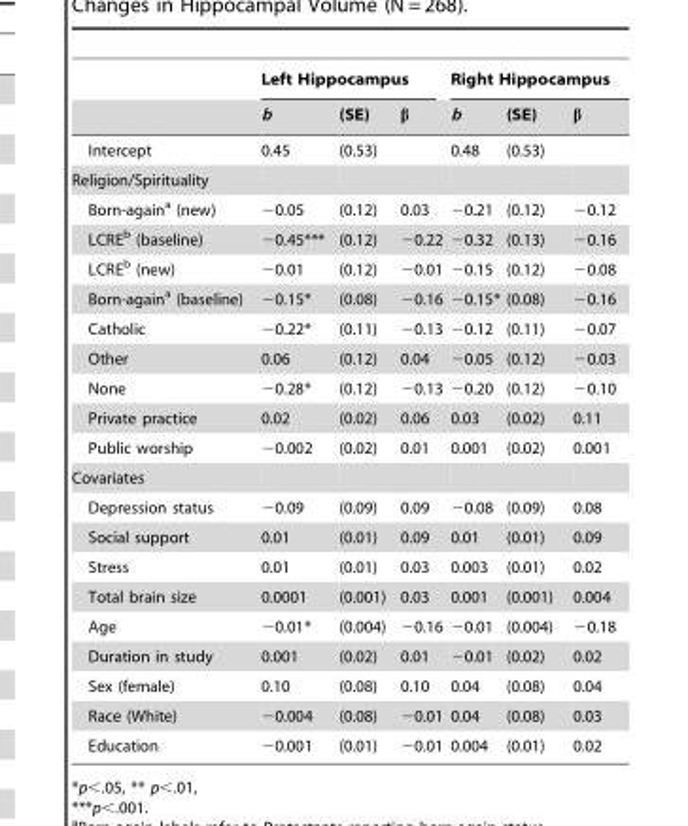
<table><thead><tr><td rowspan="2"></td><td colspan="3">Left Hippocampus</td><td colspan="3">Right Hippocampus</td></tr><tr><td>b</td><td>(SE)</td><td>β</td><td>b</td><td>(SE)</td><td>β</td></tr></thead><tbody><tr><td>Intercept</td><td>0.45</td><td>(0.53)</td><td></td><td>0.48</td><td>(0.53)</td><td></td></tr><tr><td colspan="7">Religion/Spirituality</td></tr><tr><td>Born-again<sup>a</sup> (new)</td><td>−0.05</td><td>(0.12)</td><td>0.03</td><td>−0.21</td><td>(0.12)</td><td>−0.12</td></tr><tr><td>LCRE<sup>b</sup> (baseline)</td><td>−0.45***</td><td>(0.12)</td><td>−0.22</td><td>−0.32</td><td>(0.13)</td><td>−0.16</td></tr><tr><td>LCRE<sup>b</sup> (new)</td><td>−0.01</td><td>(0.12)</td><td>−0.01</td><td>−0.15</td><td>(0.12)</td><td>−0.08</td></tr><tr><td>Born-again<sup>a</sup> (baseline)</td><td>−0.15*</td><td>(0.08)</td><td>−0.16</td><td>−0.15*</td><td>(0.08)</td><td>−0.16</td></tr><tr><td>Catholic</td><td>−0.22*</td><td>(0.11)</td><td>−0.13</td><td>−0.12</td><td>(0.11)</td><td>−0.07</td></tr><tr><td>Other</td><td>0.06</td><td>(0.12)</td><td>0.04</td><td>−0.05</td><td>(0.12)</td><td>−0.03</td></tr><tr><td>None</td><td>−0.28*</td><td>(0.12)</td><td>−0.13</td><td>−0.20</td><td>(0.12)</td><td>−0.10</td></tr><tr><td>Private practice</td><td>0.02</td><td>(0.02)</td><td>0.06</td><td>0.03</td><td>(0.02)</td><td>0.11</td></tr><tr><td>Public worship</td><td>−0.002</td><td>(0.02)</td><td>0.01</td><td>0.001</td><td>(0.02)</td><td>0.001</td></tr><tr><td colspan="7">Covariates</td></tr><tr><td>Depression status</td><td>−0.09</td><td>(0.09)</td><td>0.09</td><td>−0.08</td><td>(0.09)</td><td>0.08</td></tr><tr><td>Social support</td><td>0.01</td><td>(0.01)</td><td>0.09</td><td>0.01</td><td>(0.01)</td><td>0.09</td></tr><tr><td>Stress</td><td>0.01</td><td>(0.01)</td><td>0.03</td><td>0.003</td><td>(0.01)</td><td>0.02</td></tr><tr><td>Total brain size</td><td>0.0001</td><td>(0.001)</td><td>0.03</td><td>0.001</td><td>(0.001)</td><td>0.004</td></tr><tr><td>Age</td><td>−0.01*</td><td>(0.004)</td><td>−0.16</td><td>−0.01</td><td>(0.004)</td><td>−0.18</td></tr><tr><td>Duration in study</td><td>0.001</td><td>(0.02)</td><td>0.01</td><td>−0.01</td><td>(0.02)</td><td>0.02</td></tr><tr><td>Sex (female)</td><td>0.10</td><td>(0.08)</td><td>0.10</td><td>0.04</td><td>(0.08)</td><td>0.04</td></tr><tr><td>Race (White)</td><td>−0.004</td><td>(0.08)</td><td>−0.01</td><td>0.04</td><td>(0.08)</td><td>0.03</td></tr><tr><td>Education</td><td>−0.001</td><td>(0.01)</td><td>−0.01</td><td>0.004</td><td>(0.01)</td><td>0.02</td></tr></tbody></table>